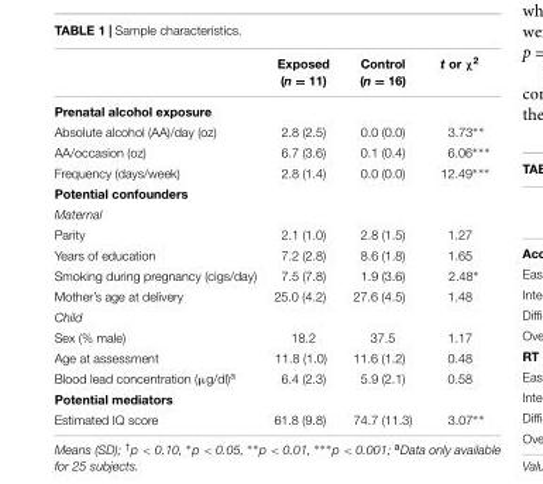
<table><thead><tr><td></td><td>Exposed (n = 11)</td><td>Control (n = 16)</td><td>t or χ<sup>2</sup></td></tr></thead><tbody><tr><td colspan="4">Prenatal alcohol exposure</td></tr><tr><td>Absolute alcohol (AA)/day (oz)</td><td>2.8 (2.5)</td><td>0.0 (0.0)</td><td>3.73∗∗</td></tr><tr><td>AA/occasion (oz)</td><td>6.7 (3.6)</td><td>0.1 (0.4)</td><td>6.06∗∗∗</td></tr><tr><td>Frequency (days/week)</td><td>2.8 (1.4)</td><td>0.0 (0.0)</td><td>12.49∗∗∗</td></tr><tr><td colspan="4">Potential confounders</td></tr><tr><td colspan="4">Maternal</td></tr><tr><td>Parity</td><td>2.1 (1.0)</td><td>2.8 (1.5)</td><td>1.27</td></tr><tr><td>Years of education</td><td>7.2 (2.8)</td><td>8.6 (1.8)</td><td>1.65</td></tr><tr><td>Smoking during pregnancy (cigs/day)</td><td>7.5 (7.8)</td><td>1.9 (3.6)</td><td>2.48∗</td></tr><tr><td>Mother’s age at delivery</td><td>25.0 (4.2)</td><td>27.6 (4.5)</td><td>1.48</td></tr><tr><td colspan="4">Child</td></tr><tr><td>Sex (% male)</td><td>18.2</td><td>37.5</td><td>1.17</td></tr><tr><td>Age at assessment</td><td>11.8 (1.0)</td><td>11.6 (1.2)</td><td>0.48</td></tr><tr><td>Blood lead concentration (µg/dl)<sup>a</sup></td><td>6.4 (2.3)</td><td>5.9 (2.1)</td><td>0.58</td></tr><tr><td colspan="4">Potential mediators</td></tr><tr><td>Estimated IQ score</td><td>61.8 (9.8)</td><td>74.7 (11.3)</td><td>3.07∗∗</td></tr></tbody></table>